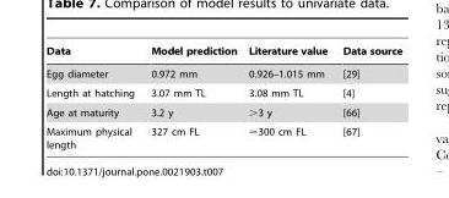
<table><thead><tr><td>Data</td><td>Model prediction</td><td>Literature value</td><td>Data source</td></tr></thead><tbody><tr><td>Egg diameter</td><td>0.972 mm</td><td>0.926–1.015 mm</td><td>[29]</td></tr><tr><td>Length at hatching</td><td>3.07 mm TL</td><td>3.08 mm TL</td><td>[4]</td></tr><tr><td>Age at maturity</td><td>3.2 y</td><td>&gt;3 y</td><td>[66]</td></tr><tr><td>Maximum physical length</td><td>327 cm FL</td><td>&lt;300 cm FL</td><td>[67]</td></tr></tbody></table>